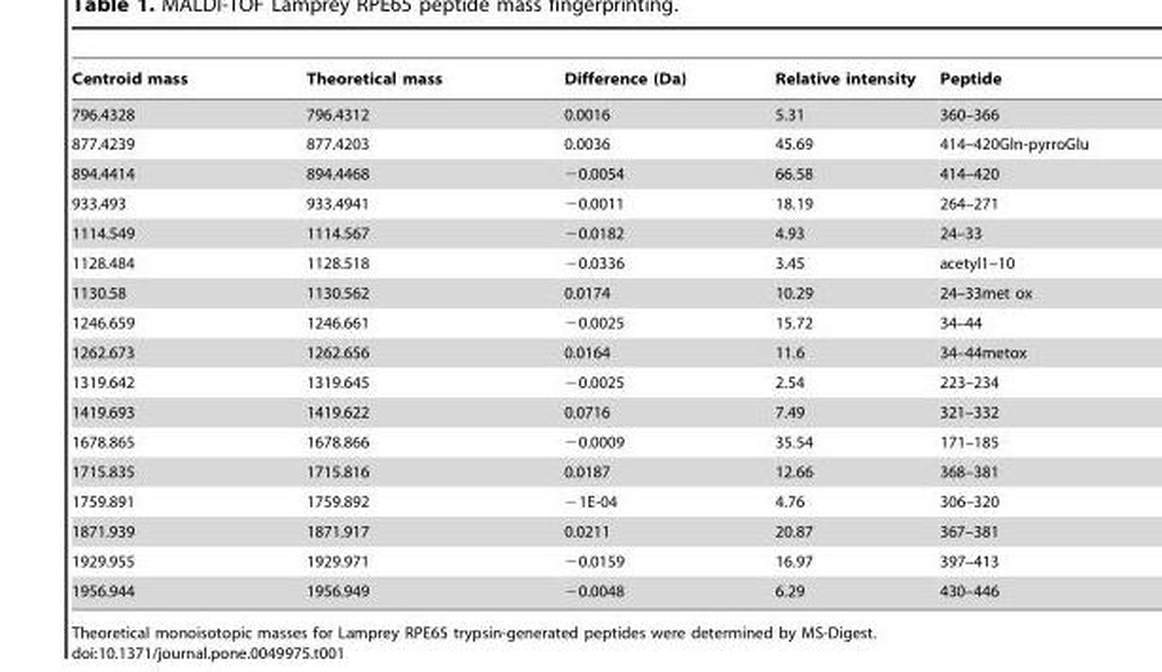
<table><thead><tr><td>Centroid mass</td><td>Theoretical mass</td><td>Difference (Da)</td><td>Relative intensity</td><td>Peptide</td></tr></thead><tbody><tr><td>796.4328</td><td>796.4312</td><td>0.0016</td><td>5.31</td><td>360–366</td></tr><tr><td>877.4239</td><td>877.4203</td><td>0.0036</td><td>45.69</td><td>414–420Gln-pyrroGlu</td></tr><tr><td>894.4414</td><td>894.4468</td><td>−0.0054</td><td>66.58</td><td>414–420</td></tr><tr><td>933.493</td><td>933.4941</td><td>−0.0011</td><td>18.19</td><td>264–271</td></tr><tr><td>1114.549</td><td>1114.567</td><td>−0.0182</td><td>4.93</td><td>24–33</td></tr><tr><td>1128.484</td><td>1128.518</td><td>−0.0336</td><td>3.45</td><td>acetyl1–10</td></tr><tr><td>1130.58</td><td>1130.562</td><td>0.0174</td><td>10.29</td><td>24–33met ox</td></tr><tr><td>1246.659</td><td>1246.661</td><td>−0.0025</td><td>15.72</td><td>34–44</td></tr><tr><td>1262.673</td><td>1262.656</td><td>0.0164</td><td>11.6</td><td>34–44metox</td></tr><tr><td>1319.642</td><td>1319.645</td><td>−0.0025</td><td>2.54</td><td>223–234</td></tr><tr><td>1419.693</td><td>1419.622</td><td>0.0716</td><td>7.49</td><td>321–332</td></tr><tr><td>1678.865</td><td>1678.866</td><td>−0.0009</td><td>35.54</td><td>171–185</td></tr><tr><td>1715.835</td><td>1715.816</td><td>0.0187</td><td>12.66</td><td>368–381</td></tr><tr><td>1759.891</td><td>1759.892</td><td>−1E-04</td><td>4.76</td><td>306–320</td></tr><tr><td>1871.939</td><td>1871.917</td><td>0.0211</td><td>20.87</td><td>367–381</td></tr><tr><td>1929.955</td><td>1929.971</td><td>−0.0159</td><td>16.97</td><td>397–413</td></tr><tr><td>1956.944</td><td>1956.949</td><td>−0.0048</td><td>6.29</td><td>430–446</td></tr></tbody></table>